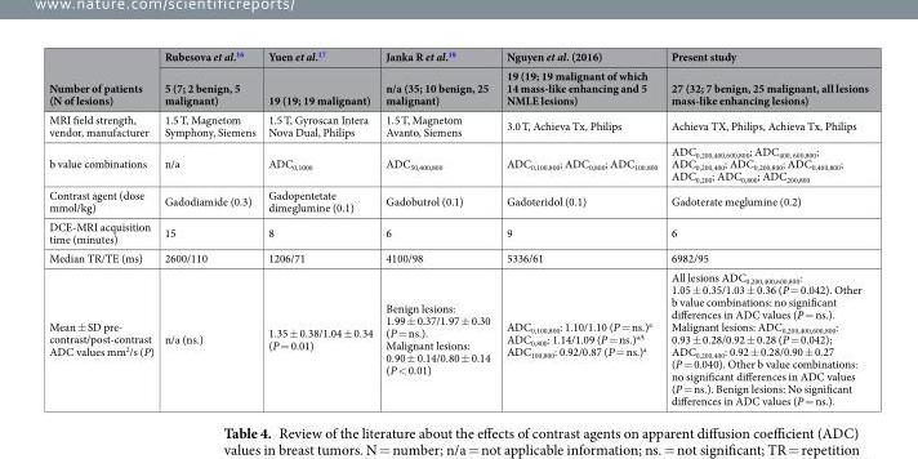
<table><thead><tr><td rowspan="2">Number of patients (N of lesions)</td><td rowspan="2">Rubesova et al.<sup>16</sup> 5 (7; 2 benign, 5 malignant)</td><td rowspan="2">Yuen et al.<sup>17</sup> 19 (19; 19 malignant)</td><td rowspan="2">Janka R et al.<sup>18</sup> n/a (35; 10 benign, 25 malignant)</td><td rowspan="2">Nguyen et al. (2016) 19 (19; 19 malignant of which 14 mass-like enhancing and 5 NMLE lesions)</td><td rowspan="2">Present study 27 (32; 7 benign, 25 malignant, all lesions mass-like enhancing lesions)</td></tr><tr></tr></thead><tbody><tr><td>MRI field strength, vendor, manufacturer</td><td>1.5 T, Magnetom Symphony, Siemens</td><td>1.5 T, Gyroscan Intera Nova Dual, Philips</td><td>1.5 T, Magnetom Avanto, Siemens</td><td>3.0 T, Achieva Tx, Philips</td><td>Achieva TX, Philips, Achieva Tx, Philips</td></tr><tr><td>b value combinations</td><td>n/a</td><td>ADC<sub>0,1000</sub></td><td>ADC<sub>50,400,800</sub></td><td>ADC<sub>0,100,800</sub>; ADC<sub>0,800</sub>; ADC<sub>100,800</sub></td><td>ADC<sub>0,200,400,600,800</sub>; ADC<sub>400, 600,800</sub>; ADC<sub>0,200,400</sub>; ADC<sub>0,200,800</sub>; ADC<sub>0,400,800</sub>; ADC<sub>0,200</sub>; ADC<sub>0,800</sub>; ADC<sub>200,800</sub></td></tr><tr><td>Contrast agent (dose mmol/kg)</td><td>Gadodiamide (0.3)</td><td>Gadopentetate dimeglumine (0.1)</td><td>Gadobutrol (0.1)</td><td>Gadoteridol (0.1)</td><td>Gadoterate meglumine (0.2)</td></tr><tr><td>DCE-MRI acquisition time (minutes)</td><td>15</td><td>8</td><td>6</td><td>9</td><td>6</td></tr><tr><td>Median TR/TE (ms)</td><td>2600/110</td><td>1206/71</td><td>4100/98</td><td>5336/61</td><td>6982/95</td></tr><tr><td>Mean ± SD pre- contrast/post-contrast ADC values mm<sup>2</sup>/s (P)</td><td>n/a (ns.)</td><td>1.35 ± 0.38/1.04 ± 0.34 (P = 0.01)</td><td>Benign lesions: 1.99 ± 0.37/1.97 ± 0.30 (P = ns.). Malignant lesions: 0.90 ± 0.14/0.80 ± 0.14 (P &lt; 0.01)</td><td>ADC<sub>0,100,800</sub>: 1.10/1.10 (P = ns.)<sup>a</sup> ADC<sub>0,800</sub>: 1.14/1.09 (P = ns.)<sup>aA</sup> ADC<sub>100,800</sub>: 0.92/0.87 (P = ns.)<sup>a</sup></td><td>All lesions ADC<sub>0,200,400,600,800</sub>: 1.05 ± 0.35/1.03 ± 0.36 (P = 0.042). Other b value combinations: no significant differences in ADC values (P = ns.). Malignant lesions: ADC<sub>0,200,400,600,800</sub>: 0.93 ± 0.28/0.92 ± 0.28 (P = 0.042); ADC<sub>0,200,400</sub>: 0.92 ± 0.28/0.90 ± 0.27 (P = 0.040). Other b value combinations: no significant differences in ADC values (P = ns.). Benign lesions: No significant differences in ADC values (P = ns.).</td></tr></tbody></table>